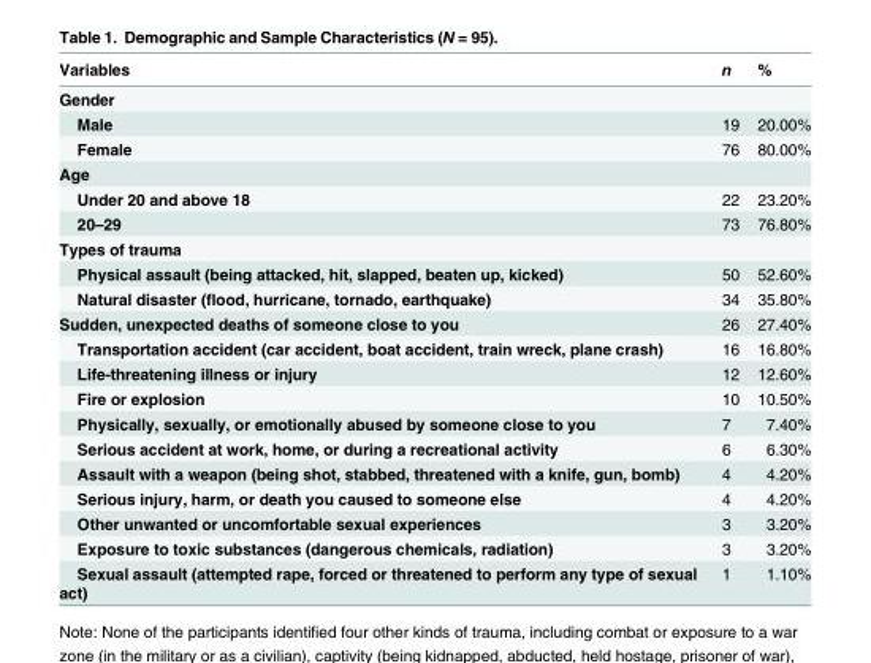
<table><thead><tr><td>Variables</td><td>n</td><td>%</td></tr></thead><tbody><tr><td colspan="3">Gender</td></tr><tr><td>Male</td><td>19</td><td>20.00%</td></tr><tr><td>Female</td><td>76</td><td>80.00%</td></tr><tr><td colspan="3">Age</td></tr><tr><td>Under 20 and above 18</td><td>22</td><td>23.20%</td></tr><tr><td>20–29</td><td>73</td><td>76.80%</td></tr><tr><td colspan="3">Types of trauma</td></tr><tr><td>Physical assault (being attacked, hit, slapped, beaten up, kicked)</td><td>50</td><td>52.60%</td></tr><tr><td>Natural disaster (flood, hurricane, tornado, earthquake)</td><td>34</td><td>35.80%</td></tr><tr><td>Sudden, unexpected deaths of someone close to you</td><td>26</td><td>27.40%</td></tr><tr><td>Transportation accident (car accident, boat accident, train wreck, plane crash)</td><td>16</td><td>16.80%</td></tr><tr><td>Life-threatening illness or injury</td><td>12</td><td>12.60%</td></tr><tr><td>Fire or explosion</td><td>10</td><td>10.50%</td></tr><tr><td>Physically, sexually, or emotionally abused by someone close to you</td><td>7</td><td>7.40%</td></tr><tr><td>Serious accident at work, home, or during a recreational activity</td><td>6</td><td>6.30%</td></tr><tr><td>Assault with a weapon (being shot, stabbed, threatened with a knife, gun, bomb)</td><td>4</td><td>4.20%</td></tr><tr><td>Serious injury, harm, or death you caused to someone else</td><td>4</td><td>4.20%</td></tr><tr><td>Other unwanted or uncomfortable sexual experiences</td><td>3</td><td>3.20%</td></tr><tr><td>Exposure to toxic substances (dangerous chemicals, radiation)</td><td>3</td><td>3.20%</td></tr><tr><td>Sexual assault (attempted rape, forced or threatened to perform any type of sexual act)</td><td>1</td><td>1.10%</td></tr></tbody></table>